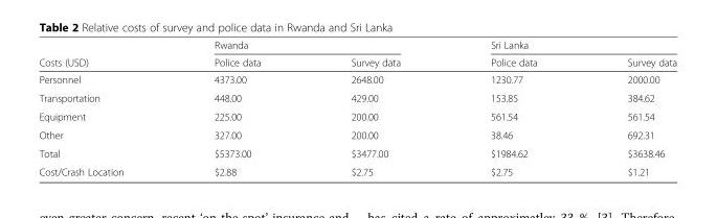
<table><thead><tr><td rowspan="2">Costs (USD)</td><td colspan="2">Rwanda</td><td colspan="2">Sri Lanka</td></tr><tr><td>Police data</td><td>Survey data</td><td>Police data</td><td>Survey data</td></tr></thead><tbody><tr><td>Personnel</td><td>4373.00</td><td>2648.00</td><td>1230.77</td><td>2000.00</td></tr><tr><td>Transportation</td><td>448.00</td><td>429.00</td><td>153.85</td><td>384.62</td></tr><tr><td>Equipment</td><td>225.00</td><td>200.00</td><td>561.54</td><td>561.54</td></tr><tr><td>Other</td><td>327.00</td><td>200.00</td><td>38.46</td><td>692.31</td></tr><tr><td>Total</td><td>$5373.00</td><td>$3477.00</td><td>$1984.62</td><td>$3638.46</td></tr><tr><td>Cost/Crash Location</td><td>$2.88</td><td>$2.75</td><td>$2.75</td><td>$1.21</td></tr></tbody></table>